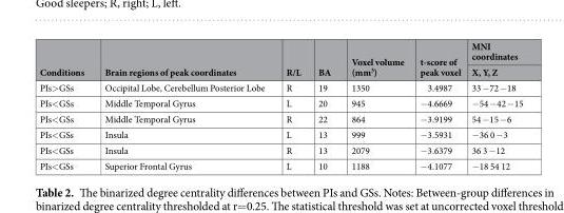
<table><thead><tr><td rowspan="2">Conditions</td><td rowspan="2">Brain regions of peak coordinates</td><td rowspan="2">R/L</td><td rowspan="2">BA</td><td rowspan="2">Voxel volume (mm<sup>3</sup>)</td><td rowspan="2">t-score of peak voxel</td><td rowspan="2">MNI coordinates X, Y, Z</td></tr><tr></tr></thead><tbody><tr><td>PIs&gt;GSs</td><td>Occipital Lobe, Cerebellum Posterior Lobe</td><td>R</td><td>19</td><td>1350</td><td>3.4987</td><td>33 −72 −18</td></tr><tr><td>PIs&lt;GSs</td><td>Middle Temporal Gyrus</td><td>L</td><td>20</td><td>945</td><td>−4.6669</td><td>−54 −42 −15</td></tr><tr><td>PIs&lt;GSs</td><td>Middle Temporal Gyrus</td><td>R</td><td>22</td><td>864</td><td>−3.9199</td><td>54 −15 −6</td></tr><tr><td>PIs&lt;GSs</td><td>Insula</td><td>L</td><td>13</td><td>999</td><td>−3.5931</td><td>−36 0 −3</td></tr><tr><td>PIs&lt;GSs</td><td>Insula</td><td>R</td><td>13</td><td>2079</td><td>−3.6379</td><td>36 3 −12</td></tr><tr><td>PIs&lt;GSs</td><td>Superior Frontal Gyrus</td><td>L</td><td>10</td><td>1188</td><td>−4.1077</td><td>−18 54 12</td></tr></tbody></table>